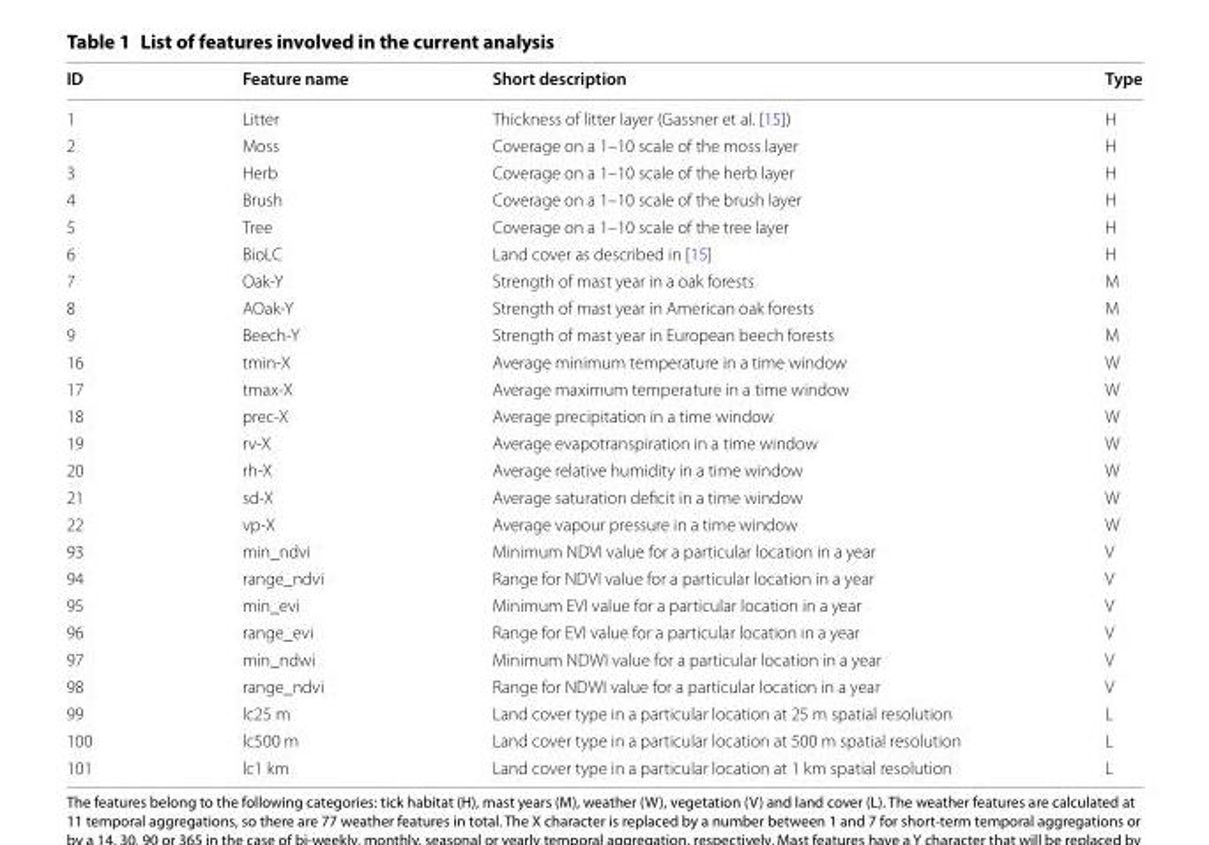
<table><thead><tr><td>ID</td><td>Feature name</td><td>Short description</td><td>Type</td></tr></thead><tbody><tr><td>1</td><td>Litter</td><td>Thickness of litter layer (Gassner et al. [15])</td><td>H</td></tr><tr><td>2</td><td>Moss</td><td>Coverage on a 1–10 scale of the moss layer</td><td>H</td></tr><tr><td>3</td><td>Herb</td><td>Coverage on a 1–10 scale of the herb layer</td><td>H</td></tr><tr><td>4</td><td>Brush</td><td>Coverage on a 1–10 scale of the brush layer</td><td>H</td></tr><tr><td>5</td><td>Tree</td><td>Coverage on a 1–10 scale of the tree layer</td><td>H</td></tr><tr><td>6</td><td>BioLC</td><td>Land cover as described in [15]</td><td>H</td></tr><tr><td>7</td><td>Oak‑Y</td><td>Strength of mast year in a oak forests</td><td>M</td></tr><tr><td>8</td><td>AOak‑Y</td><td>Strength of mast year in American oak forests</td><td>M</td></tr><tr><td>9</td><td>Beech‑Y</td><td>Strength of mast year in European beech forests</td><td>M</td></tr><tr><td>16</td><td>tmin‑X</td><td>Average minimum temperature in a time window</td><td>W</td></tr><tr><td>17</td><td>tmax‑X</td><td>Average maximum temperature in a time window</td><td>W</td></tr><tr><td>18</td><td>prec‑X</td><td>Average precipitation in a time window</td><td>W</td></tr><tr><td>19</td><td>rv‑X</td><td>Average evapotranspiration in a time window</td><td>W</td></tr><tr><td>20</td><td>rh‑X</td><td>Average relative humidity in a time window</td><td>W</td></tr><tr><td>21</td><td>sd‑X</td><td>Average saturation deficit in a time window</td><td>W</td></tr><tr><td>22</td><td>vp‑X</td><td>Average vapour pressure in a time window</td><td>W</td></tr><tr><td>93</td><td>min_ndvi</td><td>Minimum NDVI value for a particular location in a year</td><td>V</td></tr><tr><td>94</td><td>range_ndvi</td><td>Range for NDVI value for a particular location in a year</td><td>V</td></tr><tr><td>95</td><td>min_evi</td><td>Minimum EVI value for a particular location in a year</td><td>V</td></tr><tr><td>96</td><td>range_evi</td><td>Range for EVI value for a particular location in a year</td><td>V</td></tr><tr><td>97</td><td>min_ndwi</td><td>Minimum NDWI value for a particular location in a year</td><td>V</td></tr><tr><td>98</td><td>range_ndvi</td><td>Range for NDWI value for a particular location in a year</td><td>V</td></tr><tr><td>99</td><td>lc25 m</td><td>Land cover type in a particular location at 25 m spatial resolution</td><td>L</td></tr><tr><td>100</td><td>lc500 m</td><td>Land cover type in a particular location at 500 m spatial resolution</td><td>L</td></tr><tr><td>101</td><td>lc1 km</td><td>Land cover type in a particular location at 1 km spatial resolution</td><td>L</td></tr></tbody></table>